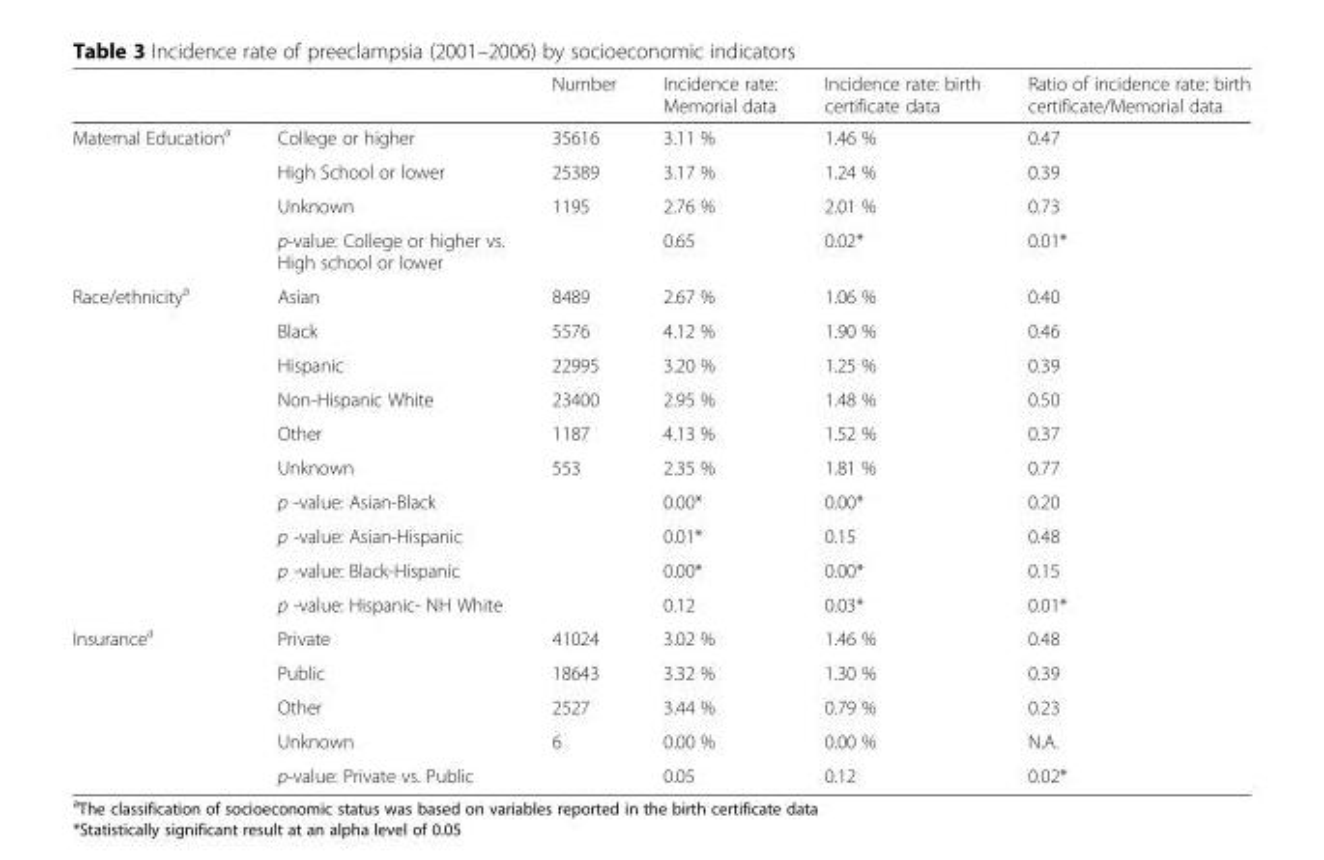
<table><thead><tr><td></td><td></td><td>Number</td><td>Incidence rate: Memorial data</td><td>Incidence rate: birth certificate data</td><td>Ratio of incidence rate: birth certificate/Memorial data</td></tr></thead><tbody><tr><td rowspan="4">Maternal Education<sup>a</sup></td><td>College or higher</td><td>35616</td><td>3.11 %</td><td>1.46 %</td><td>0.47</td></tr><tr><td>High School or lower</td><td>25389</td><td>3.17 %</td><td>1.24 %</td><td>0.39</td></tr><tr><td>Unknown</td><td>1195</td><td>2.76 %</td><td>2.01 %</td><td>0.73</td></tr><tr><td>p-value: College or higher vs. High school or lower</td><td></td><td>0.65</td><td>0.02*</td><td>0.01*</td></tr><tr><td rowspan="10">Race/ethnicity<sup>a</sup></td><td>Asian</td><td>8489</td><td>2.67 %</td><td>1.06 %</td><td>0.40</td></tr><tr><td>Black</td><td>5576</td><td>4.12 %</td><td>1.90 %</td><td>0.46</td></tr><tr><td>Hispanic</td><td>22995</td><td>3.20 %</td><td>1.25 %</td><td>0.39</td></tr><tr><td>Non-Hispanic White</td><td>23400</td><td>2.95 %</td><td>1.48 %</td><td>0.50</td></tr><tr><td>Other</td><td>1187</td><td>4.13 %</td><td>1.52 %</td><td>0.37</td></tr><tr><td>Unknown</td><td>553</td><td>2.35 %</td><td>1.81 %</td><td>0.77</td></tr><tr><td>p -value: Asian-Black</td><td></td><td>0.00*</td><td>0.00*</td><td>0.20</td></tr><tr><td>p -value: Asian-Hispanic</td><td></td><td>0.01*</td><td>0.15</td><td>0.48</td></tr><tr><td>p -value: Black-Hispanic</td><td></td><td>0.00*</td><td>0.00*</td><td>0.15</td></tr><tr><td>p -value: Hispanic- NH White</td><td></td><td>0.12</td><td>0.03*</td><td>0.01*</td></tr><tr><td rowspan="5">Insurance<sup>a</sup></td><td>Private</td><td>41024</td><td>3.02 %</td><td>1.46 %</td><td>0.48</td></tr><tr><td>Public</td><td>18643</td><td>3.32 %</td><td>1.30 %</td><td>0.39</td></tr><tr><td>Other</td><td>2527</td><td>3.44 %</td><td>0.79 %</td><td>0.23</td></tr><tr><td>Unknown</td><td>6</td><td>0.00 %</td><td>0.00 %</td><td>N.A.</td></tr><tr><td>p-value: Private vs. Public</td><td></td><td>0.05</td><td>0.12</td><td>0.02*</td></tr></tbody></table>